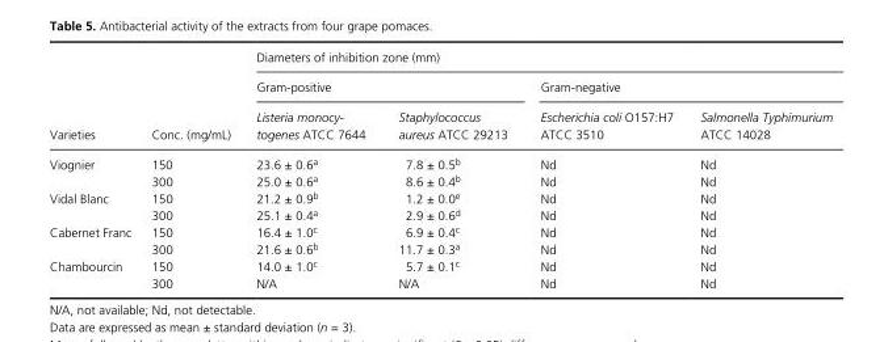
<table><thead><tr><td rowspan="3">Varieties</td><td rowspan="3">Conc. (mg/mL)</td><td colspan="4">Diameters of inhibition zone (mm)</td></tr><tr><td colspan="2">Gram- positive</td><td colspan="2">Gram- negative</td></tr><tr><td>Listeria monocy togenes ATCC 7644</td><td>Staphylococcus aureus ATCC 29213</td><td>Escherichia coli O157:H7 ATCC 3510</td><td>Salmonella Typhimurium ATCC 14028</td></tr></thead><tbody><tr><td rowspan="2">Viognier</td><td>150</td><td>23.6 ± 0.6<sup>a</sup></td><td>7.8 ± 0.5<sup>b</sup></td><td>Nd</td><td>Nd</td></tr><tr><td>300</td><td>25.0 ± 0.6<sup>a</sup></td><td>8.6 ± 0.4<sup>b</sup></td><td>Nd</td><td>Nd</td></tr><tr><td rowspan="2">Vidal Blanc</td><td>150</td><td>21.2 ± 0.9<sup>b</sup></td><td>1.2 ± 0.0<sup>e</sup></td><td>Nd</td><td>Nd</td></tr><tr><td>300</td><td>25.1 ± 0.4<sup>a</sup></td><td>2.9 ± 0.6<sup>d</sup></td><td>Nd</td><td>Nd</td></tr><tr><td rowspan="2">Cabernet Franc</td><td>150</td><td>16.4 ± 1.0<sup>c</sup></td><td>6.9 ± 0.4<sup>c</sup></td><td>Nd</td><td>Nd</td></tr><tr><td>300</td><td>21.6 ± 0.6<sup>b</sup></td><td>11.7 ± 0.3<sup>a</sup></td><td>Nd</td><td>Nd</td></tr><tr><td rowspan="2">Chambourcin</td><td>150</td><td>14.0 ± 1.0<sup>c</sup></td><td>5.7 ± 0.1<sup>c</sup></td><td>Nd</td><td>Nd</td></tr><tr><td>300</td><td>N/A</td><td>N/A</td><td>Nd</td><td>Nd</td></tr></tbody></table>